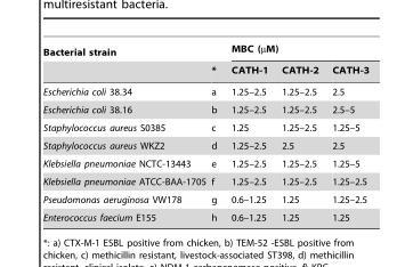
<table><thead><tr><td rowspan="2">Bacterial strain</td><td rowspan="2">*</td><td colspan="3">MBC (µM)</td></tr><tr><td>CATH-1</td><td>CATH-2</td><td>CATH-3</td></tr></thead><tbody><tr><td>Escherichia coli 38.34</td><td>a</td><td>1.25–2.5</td><td>1.25–2.5</td><td>2.5</td></tr><tr><td>Escherichia coli 38.16</td><td>b</td><td>1.25–2.5</td><td>1.25–2.5</td><td>2.5–5</td></tr><tr><td>Staphylococcus aureus S0385</td><td>c</td><td>1.25</td><td>1.25–2.5</td><td>1.25–5</td></tr><tr><td>Staphylococcus aureus WKZ2</td><td>d</td><td>1.25–2.5</td><td>2.5</td><td>2.5</td></tr><tr><td>Klebsiella pneumoniae NCTC-13443</td><td>e</td><td>1.25–2.5</td><td>1.25–2.5</td><td>1.25–5</td></tr><tr><td>Klebsiella pneumoniae ATCC-BAA-1705</td><td>f</td><td>1.25–2.5</td><td>1.25–2.5</td><td>1.25–2.5</td></tr><tr><td>Pseudomonas aeruginosa VW178</td><td>g</td><td>0.6–1.25</td><td>1.25</td><td>1.25–2.5</td></tr><tr><td>Enterococcus faecium E155</td><td>h</td><td>0.6–1.25</td><td>1.25</td><td>1.25</td></tr></tbody></table>